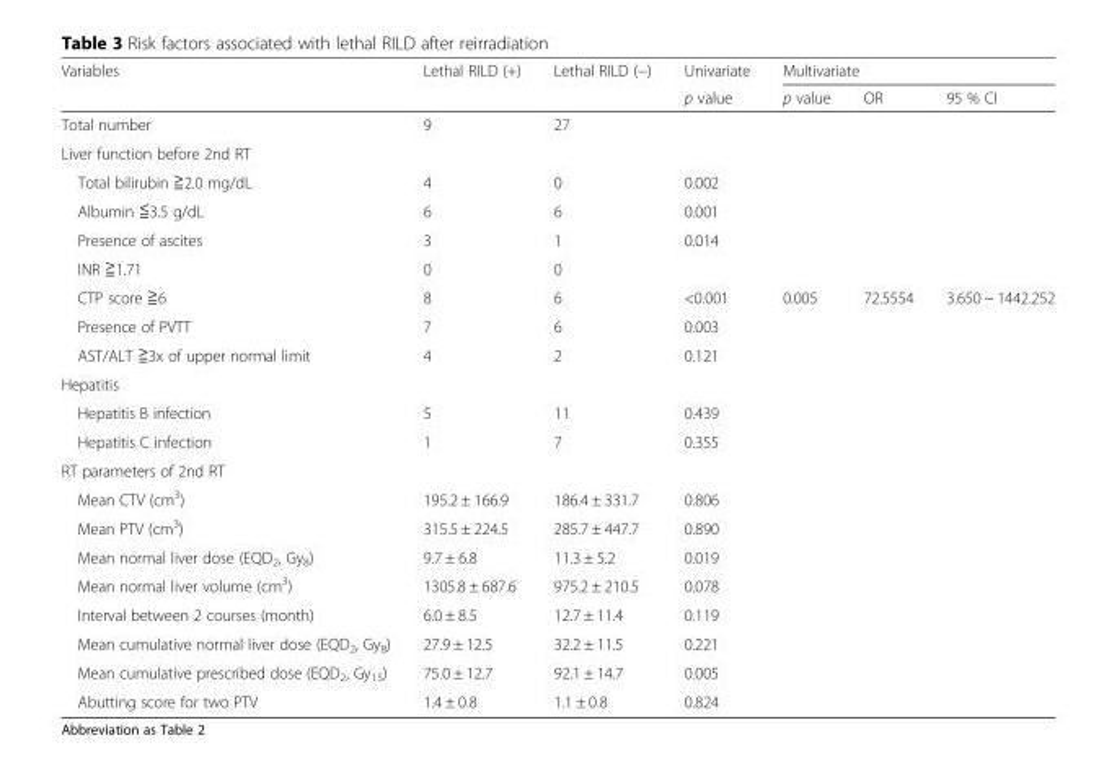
<table><thead><tr><td rowspan="2">Variables</td><td rowspan="2">Lethal RILD (+)</td><td rowspan="2">Lethal RILD (−)</td><td rowspan="2">Univariate p value</td><td colspan="3">Multivariate</td></tr><tr><td>p value</td><td>OR</td><td>95 % CI</td></tr></thead><tbody><tr><td>Total number</td><td>9</td><td>27</td><td></td><td></td><td></td><td></td></tr><tr><td colspan="7">Liver function before 2nd RT</td></tr><tr><td>Total bilirubin ≧2.0 mg/dL</td><td>4</td><td>0</td><td>0.002</td><td></td><td></td><td></td></tr><tr><td>Albumin ≦3.5 g/dL</td><td>6</td><td>6</td><td>0.001</td><td></td><td></td><td></td></tr><tr><td>Presence of ascites</td><td>3</td><td>1</td><td>0.014</td><td></td><td></td><td></td></tr><tr><td>INR ≧1.71</td><td>0</td><td>0</td><td></td><td></td><td></td><td></td></tr><tr><td>CTP score ≧6</td><td>8</td><td>6</td><td>&lt;0.001</td><td>0.005</td><td>72.5554</td><td>3.650 ~ 1442.252</td></tr><tr><td>Presence of PVTT</td><td>7</td><td>6</td><td>0.003</td><td></td><td></td><td></td></tr><tr><td>AST/ALT ≧3x of upper normal limit</td><td>4</td><td>2</td><td>0.121</td><td></td><td></td><td></td></tr><tr><td colspan="7">Hepatitis</td></tr><tr><td>Hepatitis B infection</td><td>5</td><td>11</td><td>0.439</td><td></td><td></td><td></td></tr><tr><td>Hepatitis C infection</td><td>1</td><td>7</td><td>0.355</td><td></td><td></td><td></td></tr><tr><td colspan="7">RT parameters of 2nd RT</td></tr><tr><td>Mean CTV (cm<sup>3</sup>)</td><td>195.2 ± 166.9</td><td>186.4 ± 331.7</td><td>0.806</td><td></td><td></td><td></td></tr><tr><td>Mean PTV (cm<sup>3</sup>)</td><td>315.5 ± 224.5</td><td>285.7 ± 447.7</td><td>0.890</td><td></td><td></td><td></td></tr><tr><td>Mean normal liver dose (EQD<sub>2</sub>, Gy<sub>8</sub>)</td><td>9.7 ± 6.8</td><td>11.3 ± 5.2</td><td>0.019</td><td></td><td></td><td></td></tr><tr><td>Mean normal liver volume (cm<sup>3</sup>)</td><td>1305.8 ± 687.6</td><td>975.2 ± 210.5</td><td>0.078</td><td></td><td></td><td></td></tr><tr><td>Interval between 2 courses (month)</td><td>6.0 ± 8.5</td><td>12.7 ± 11.4</td><td>0.119</td><td></td><td></td><td></td></tr><tr><td>Mean cumulative normal liver dose (EQD<sub>2</sub>, Gy<sub>8</sub>)</td><td>27.9 ± 12.5</td><td>32.2 ± 11.5</td><td>0.221</td><td></td><td></td><td></td></tr><tr><td>Mean cumulative prescribed dose (EQD<sub>2</sub>, Gy<sub>15</sub>)</td><td>75.0 ± 12.7</td><td>92.1 ± 14.7</td><td>0.005</td><td></td><td></td><td></td></tr><tr><td>Abutting score for two PTV</td><td>1.4 ± 0.8</td><td>1.1 ± 0.8</td><td>0.824</td><td></td><td></td><td></td></tr></tbody></table>